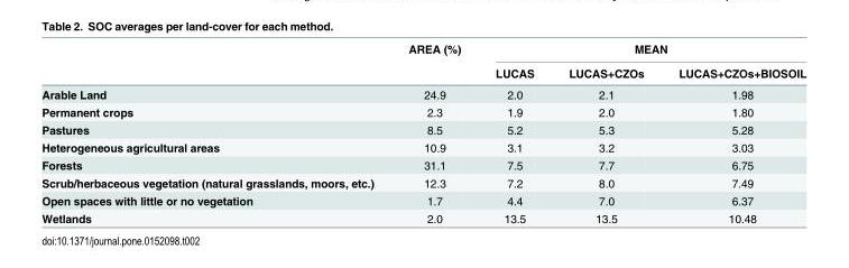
<table><thead><tr><td rowspan="2"></td><td rowspan="2">AREA (%)</td><td colspan="3">MEAN</td></tr><tr><td>LUCAS</td><td>LUCAS+CZOs</td><td>LUCAS+CZOs+BIOSOIL</td></tr></thead><tbody><tr><td>Arable Land</td><td>24.9</td><td>2.0</td><td>2.1</td><td>1.98</td></tr><tr><td>Permanent crops</td><td>2.3</td><td>1.9</td><td>2.0</td><td>1.80</td></tr><tr><td>Pastures</td><td>8.5</td><td>5.2</td><td>5.3</td><td>5.28</td></tr><tr><td>Heterogeneous agricultural areas</td><td>10.9</td><td>3.1</td><td>3.2</td><td>3.03</td></tr><tr><td>Forests</td><td>31.1</td><td>7.5</td><td>7.7</td><td>6.75</td></tr><tr><td>Scrub/herbaceous vegetation (natural grasslands, moors, etc.)</td><td>12.3</td><td>7.2</td><td>8.0</td><td>7.49</td></tr><tr><td>Open spaces with little or no vegetation</td><td>1.7</td><td>4.4</td><td>7.0</td><td>6.37</td></tr><tr><td>Wetlands</td><td>2.0</td><td>13.5</td><td>13.5</td><td>10.48</td></tr></tbody></table>